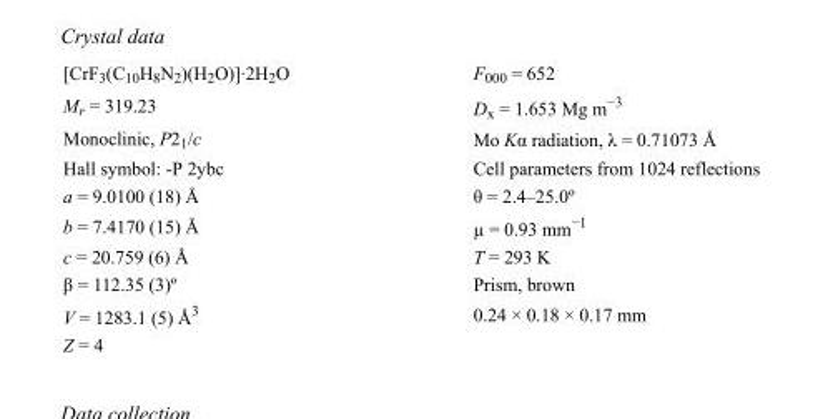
<table><tbody><tr><td>[CrF<sub>3</sub>(C<sub>10</sub>H<sub>8</sub>N<sub>2</sub>)(H<sub>2</sub>O)]·2H<sub>2</sub>O</td><td>F000 = 652</td></tr><tr><td>M<sub>r</sub> = 319.23</td><td>D<sub>x</sub> = 1.653 Mg m<sup>−3</sup></td></tr><tr><td>Monoclinic, P2<sub>1</sub>/c</td><td>Mo Kα radiation, λ = 0.71073 Å</td></tr><tr><td>Hall symbol: -P 2ybc</td><td>Cell parameters from 1024 reflections</td></tr><tr><td>a = 9.0100 (18) Å</td><td>θ = 2.4–25.0º</td></tr><tr><td>b = 7.4170 (15) Å</td><td>µ = 0.93 mm<sup>−1</sup></td></tr><tr><td>c = 20.759 (6) Å</td><td>T = 293 K</td></tr><tr><td>β = 112.35 (3)º</td><td>Prism, brown</td></tr><tr><td>V = 1283.1 (5) Å<sup>3</sup></td><td>0.24 × 0.18 × 0.17 mm</td></tr><tr><td>Z = 4</td><td></td></tr></tbody></table>